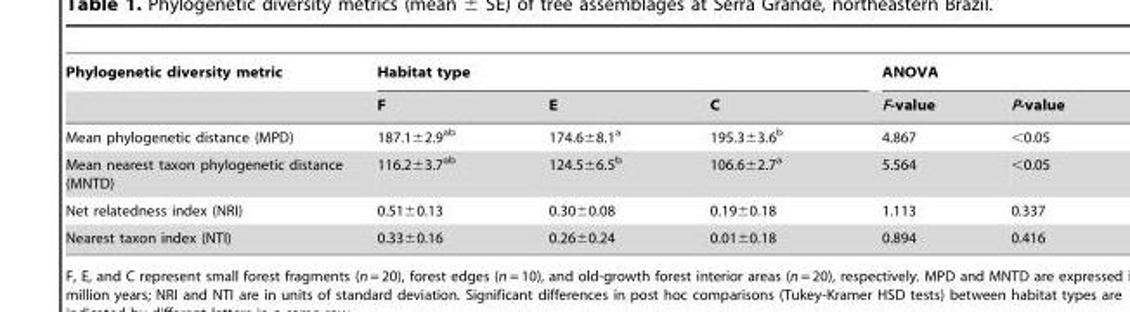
<table><thead><tr><td rowspan="2">Phylogenetic diversity metric</td><td colspan="3">Habitat type</td><td colspan="2">ANOVA</td></tr><tr><td>F</td><td>E</td><td>C</td><td>F-value</td><td>P-value</td></tr></thead><tbody><tr><td>Mean phylogenetic distance (MPD)</td><td>187.1±2.9<sup>ab</sup></td><td>174.6±8.1<sup>a</sup></td><td>195.3±3.6<sup>b</sup></td><td>4.867</td><td>&lt;0.05</td></tr><tr><td>Mean nearest taxon phylogenetic distance (MNTD)</td><td>116.2±3.7<sup>ab</sup></td><td>124.5±6.5<sup>b</sup></td><td>106.6±2.7<sup>a</sup></td><td>5.564</td><td>&lt;0.05</td></tr><tr><td>Net relatedness index (NRI)</td><td>0.51±0.13</td><td>0.30±0.08</td><td>0.19±0.18</td><td>1.113</td><td>0.337</td></tr><tr><td>Nearest taxon index (NTI)</td><td>0.33±0.16</td><td>0.26±0.24</td><td>0.01±0.18</td><td>0.894</td><td>0.416</td></tr></tbody></table>